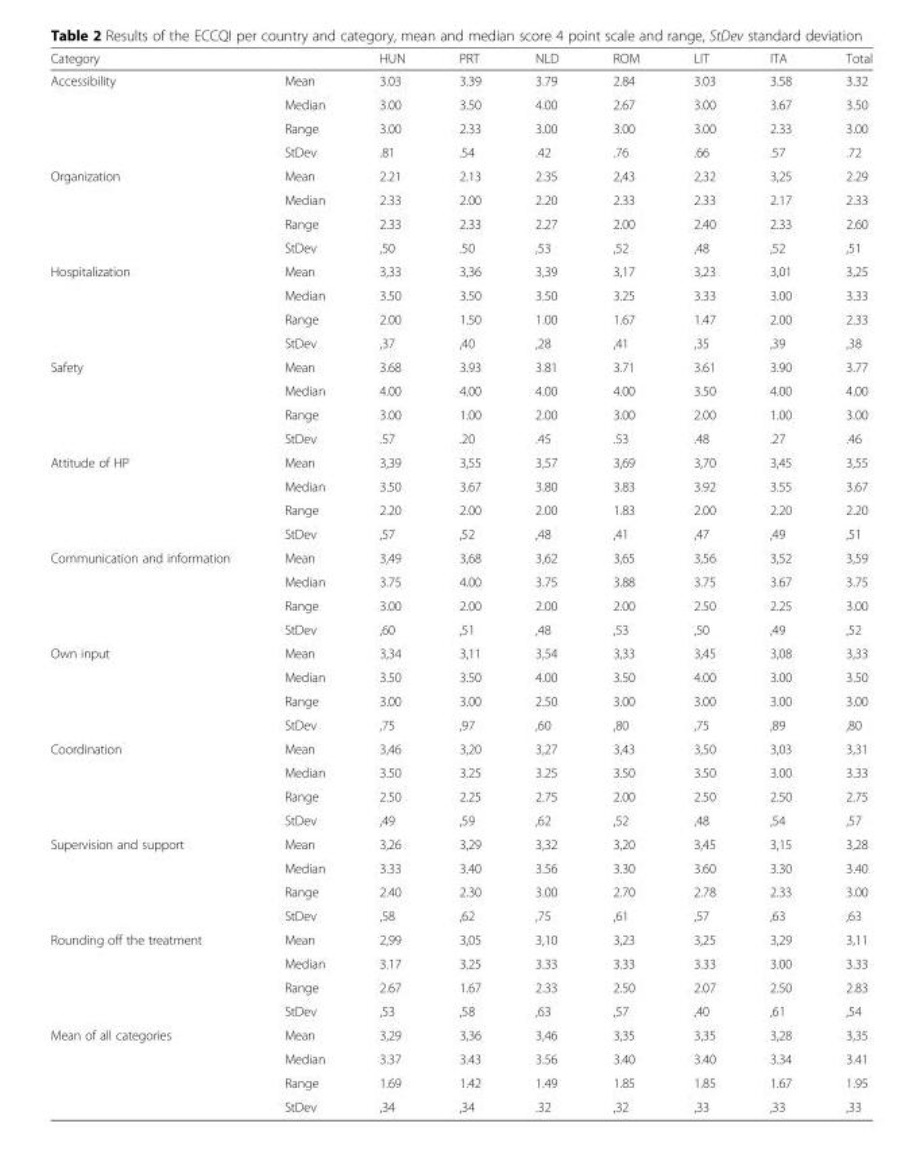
<table><thead><tr><td>Category</td><td></td><td>HUN</td><td>PRT</td><td>NLD</td><td>ROM</td><td>LIT</td><td>ITA</td><td>Total</td></tr></thead><tbody><tr><td rowspan="4">Accessibility</td><td>Mean</td><td>3.03</td><td>3.39</td><td>3.79</td><td>2.84</td><td>3.03</td><td>3.58</td><td>3.32</td></tr><tr><td>Median</td><td>3.00</td><td>3.50</td><td>4.00</td><td>2.67</td><td>3.00</td><td>3.67</td><td>3.50</td></tr><tr><td>Range</td><td>3.00</td><td>2.33</td><td>3.00</td><td>3.00</td><td>3.00</td><td>2.33</td><td>3.00</td></tr><tr><td>StDev</td><td>.81</td><td>.54</td><td>.42</td><td>.76</td><td>.66</td><td>.57</td><td>.72</td></tr><tr><td rowspan="4">Organization</td><td>Mean</td><td>2.21</td><td>2.13</td><td>2.35</td><td>2,43</td><td>2,32</td><td>3,25</td><td>2.29</td></tr><tr><td>Median</td><td>2.33</td><td>2.00</td><td>2.20</td><td>2.33</td><td>2.33</td><td>2.17</td><td>2.33</td></tr><tr><td>Range</td><td>2.33</td><td>2.33</td><td>2.27</td><td>2.00</td><td>2.40</td><td>2.33</td><td>2.60</td></tr><tr><td>StDev</td><td>,50</td><td>.50</td><td>,53</td><td>,52</td><td>,48</td><td>,52</td><td>,51</td></tr><tr><td rowspan="4">Hospitalization</td><td>Mean</td><td>3,33</td><td>3,36</td><td>3,39</td><td>3,17</td><td>3,23</td><td>3,01</td><td>3,25</td></tr><tr><td>Median</td><td>3.50</td><td>3.50</td><td>3.50</td><td>3.25</td><td>3.33</td><td>3.00</td><td>3.33</td></tr><tr><td>Range</td><td>2.00</td><td>1.50</td><td>1.00</td><td>1.67</td><td>1.47</td><td>2.00</td><td>2.33</td></tr><tr><td>StDev</td><td>,37</td><td>,40</td><td>,28</td><td>,41</td><td>,35</td><td>,39</td><td>,38</td></tr><tr><td rowspan="4">Safety</td><td>Mean</td><td>3.68</td><td>3.93</td><td>3.81</td><td>3.71</td><td>3.61</td><td>3.90</td><td>3.77</td></tr><tr><td>Median</td><td>4.00</td><td>4.00</td><td>4.00</td><td>4.00</td><td>3.50</td><td>4.00</td><td>4.00</td></tr><tr><td>Range</td><td>3.00</td><td>1.00</td><td>2.00</td><td>3.00</td><td>2.00</td><td>1.00</td><td>3.00</td></tr><tr><td>StDev</td><td>.57</td><td>.20</td><td>.45</td><td>.53</td><td>.48</td><td>.27</td><td>.46</td></tr><tr><td rowspan="4">Attitude of HP</td><td>Mean</td><td>3,39</td><td>3,55</td><td>3,57</td><td>3,69</td><td>3,70</td><td>3,45</td><td>3,55</td></tr><tr><td>Median</td><td>3.50</td><td>3.67</td><td>3.80</td><td>3.83</td><td>3.92</td><td>3.55</td><td>3.67</td></tr><tr><td>Range</td><td>2.20</td><td>2.00</td><td>2.00</td><td>1.83</td><td>2.00</td><td>2.20</td><td>2.20</td></tr><tr><td>StDev</td><td>,57</td><td>,52</td><td>,48</td><td>,41</td><td>,47</td><td>,49</td><td>,51</td></tr><tr><td rowspan="4">Communication and information</td><td>Mean</td><td>3,49</td><td>3,68</td><td>3,62</td><td>3,65</td><td>3,56</td><td>3,52</td><td>3,59</td></tr><tr><td>Median</td><td>3.75</td><td>4.00</td><td>3.75</td><td>3.88</td><td>3.75</td><td>3.67</td><td>3.75</td></tr><tr><td>Range</td><td>3.00</td><td>2.00</td><td>2.00</td><td>2.00</td><td>2.50</td><td>2.25</td><td>3.00</td></tr><tr><td>StDev</td><td>,60</td><td>,51</td><td>,48</td><td>,53</td><td>,50</td><td>,49</td><td>,52</td></tr><tr><td rowspan="4">Own input</td><td>Mean</td><td>3,34</td><td>3,11</td><td>3,54</td><td>3,33</td><td>3,45</td><td>3,08</td><td>3,33</td></tr><tr><td>Median</td><td>3.50</td><td>3.50</td><td>4.00</td><td>3.50</td><td>4.00</td><td>3.00</td><td>3.50</td></tr><tr><td>Range</td><td>3.00</td><td>3.00</td><td>2.50</td><td>3.00</td><td>3.00</td><td>3.00</td><td>3.00</td></tr><tr><td>StDev</td><td>,75</td><td>,97</td><td>,60</td><td>,80</td><td>,75</td><td>,89</td><td>,80</td></tr><tr><td rowspan="4">Coordination</td><td>Mean</td><td>3,46</td><td>3,20</td><td>3,27</td><td>3,43</td><td>3,50</td><td>3,03</td><td>3,31</td></tr><tr><td>Median</td><td>3.50</td><td>3.25</td><td>3.25</td><td>3.50</td><td>3.50</td><td>3.00</td><td>3.33</td></tr><tr><td>Range</td><td>2.50</td><td>2.25</td><td>2.75</td><td>2.00</td><td>2.50</td><td>2.50</td><td>2.75</td></tr><tr><td>StDev</td><td>,49</td><td>,59</td><td>,62</td><td>,52</td><td>,48</td><td>,54</td><td>,57</td></tr><tr><td rowspan="4">Supervision and support</td><td>Mean</td><td>3,26</td><td>3,29</td><td>3,32</td><td>3,20</td><td>3,45</td><td>3,15</td><td>3,28</td></tr><tr><td>Median</td><td>3.33</td><td>3.40</td><td>3.56</td><td>3.30</td><td>3.60</td><td>3.30</td><td>3.40</td></tr><tr><td>Range</td><td>2.40</td><td>2.30</td><td>3.00</td><td>2.70</td><td>2.78</td><td>2.33</td><td>3.00</td></tr><tr><td>StDev</td><td>,58</td><td>,62</td><td>,75</td><td>,61</td><td>,57</td><td>,63</td><td>,63</td></tr><tr><td rowspan="4">Rounding off the treatment</td><td>Mean</td><td>2,99</td><td>3,05</td><td>3,10</td><td>3,23</td><td>3,25</td><td>3,29</td><td>3,11</td></tr><tr><td>Median</td><td>3.17</td><td>3.25</td><td>3.33</td><td>3.33</td><td>3.33</td><td>3.00</td><td>3.33</td></tr><tr><td>Range</td><td>2.67</td><td>1.67</td><td>2.33</td><td>2.50</td><td>2.07</td><td>2.50</td><td>2.83</td></tr><tr><td>StDev</td><td>,53</td><td>,58</td><td>,63</td><td>,57</td><td>,40</td><td>,61</td><td>,54</td></tr><tr><td rowspan="4">Mean of all categories</td><td>Mean</td><td>3,29</td><td>3,36</td><td>3,46</td><td>3,35</td><td>3,35</td><td>3,28</td><td>3,35</td></tr><tr><td>Median</td><td>3.37</td><td>3.43</td><td>3.56</td><td>3.40</td><td>3.40</td><td>3.34</td><td>3.41</td></tr><tr><td>Range</td><td>1.69</td><td>1.42</td><td>1.49</td><td>1.85</td><td>1.85</td><td>1.67</td><td>1.95</td></tr><tr><td>StDev</td><td>,34</td><td>,34</td><td>.32</td><td>,32</td><td>,33</td><td>,33</td><td>,33</td></tr></tbody></table>